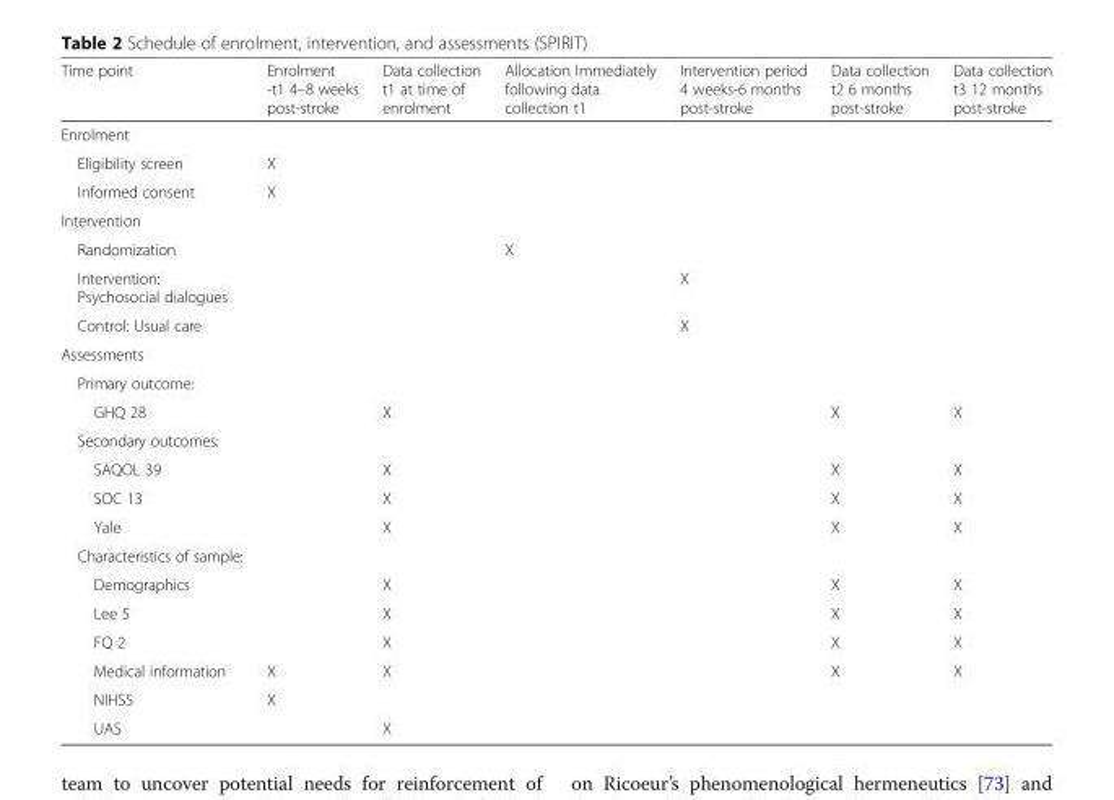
<table><thead><tr><td>Time point</td><td>Enrolment -t1 4–8 weeks post-stroke</td><td>Data collection t1 at time of enrolment</td><td>Allocation Immediately following data collection t1</td><td>Intervention period 4 weeks-6 months post-stroke</td><td>Data collection t2 6 months post-stroke</td><td>Data collection t3 12 months post-stroke</td></tr></thead><tbody><tr><td colspan="7">Enrolment</td></tr><tr><td>Eligibility screen</td><td>X</td><td></td><td></td><td></td><td></td><td></td></tr><tr><td>Informed consent</td><td>X</td><td></td><td></td><td></td><td></td><td></td></tr><tr><td colspan="7">Intervention</td></tr><tr><td>Randomization</td><td></td><td></td><td>X</td><td></td><td></td><td></td></tr><tr><td>Intervention: Psychosocial dialogues</td><td></td><td></td><td></td><td>X</td><td></td><td></td></tr><tr><td>Control: Usual care</td><td></td><td></td><td></td><td>X</td><td></td><td></td></tr><tr><td colspan="7">Assessments</td></tr><tr><td colspan="7">Primary outcome:</td></tr><tr><td>GHQ 28</td><td></td><td>X</td><td></td><td></td><td>X</td><td>X</td></tr><tr><td colspan="7">Secondary outcomes:</td></tr><tr><td>SAQOL 39</td><td></td><td>X</td><td></td><td></td><td>X</td><td>X</td></tr><tr><td>SOC 13</td><td></td><td>X</td><td></td><td></td><td>X</td><td>X</td></tr><tr><td>Yale</td><td></td><td>X</td><td></td><td></td><td>X</td><td>X</td></tr><tr><td colspan="7">Characteristics of sample:</td></tr><tr><td>Demographics</td><td></td><td>X</td><td></td><td></td><td>X</td><td>X</td></tr><tr><td>Lee 5</td><td></td><td>X</td><td></td><td></td><td>X</td><td>X</td></tr><tr><td>FQ 2</td><td></td><td>X</td><td></td><td></td><td>X</td><td>X</td></tr><tr><td>Medical information</td><td>X</td><td>X</td><td></td><td></td><td>X</td><td>X</td></tr><tr><td>NIHSS</td><td>X</td><td></td><td></td><td></td><td></td><td></td></tr><tr><td>UAS</td><td></td><td>X</td><td></td><td></td><td></td><td></td></tr></tbody></table>